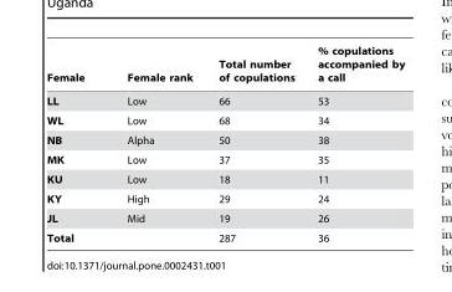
<table><thead><tr><td>Female</td><td>Female rank</td><td>Total number of copulations</td><td>% copulations accompanied by a call</td></tr></thead><tbody><tr><td>LL</td><td>Low</td><td>66</td><td>53</td></tr><tr><td>WL</td><td>Low</td><td>68</td><td>34</td></tr><tr><td>NB</td><td>Alpha</td><td>50</td><td>38</td></tr><tr><td>MK</td><td>Low</td><td>37</td><td>35</td></tr><tr><td>KU</td><td>Low</td><td>18</td><td>11</td></tr><tr><td>KY</td><td>High</td><td>29</td><td>24</td></tr><tr><td>JL</td><td>Mid</td><td>19</td><td>26</td></tr><tr><td>Total</td><td></td><td>287</td><td>36</td></tr></tbody></table>